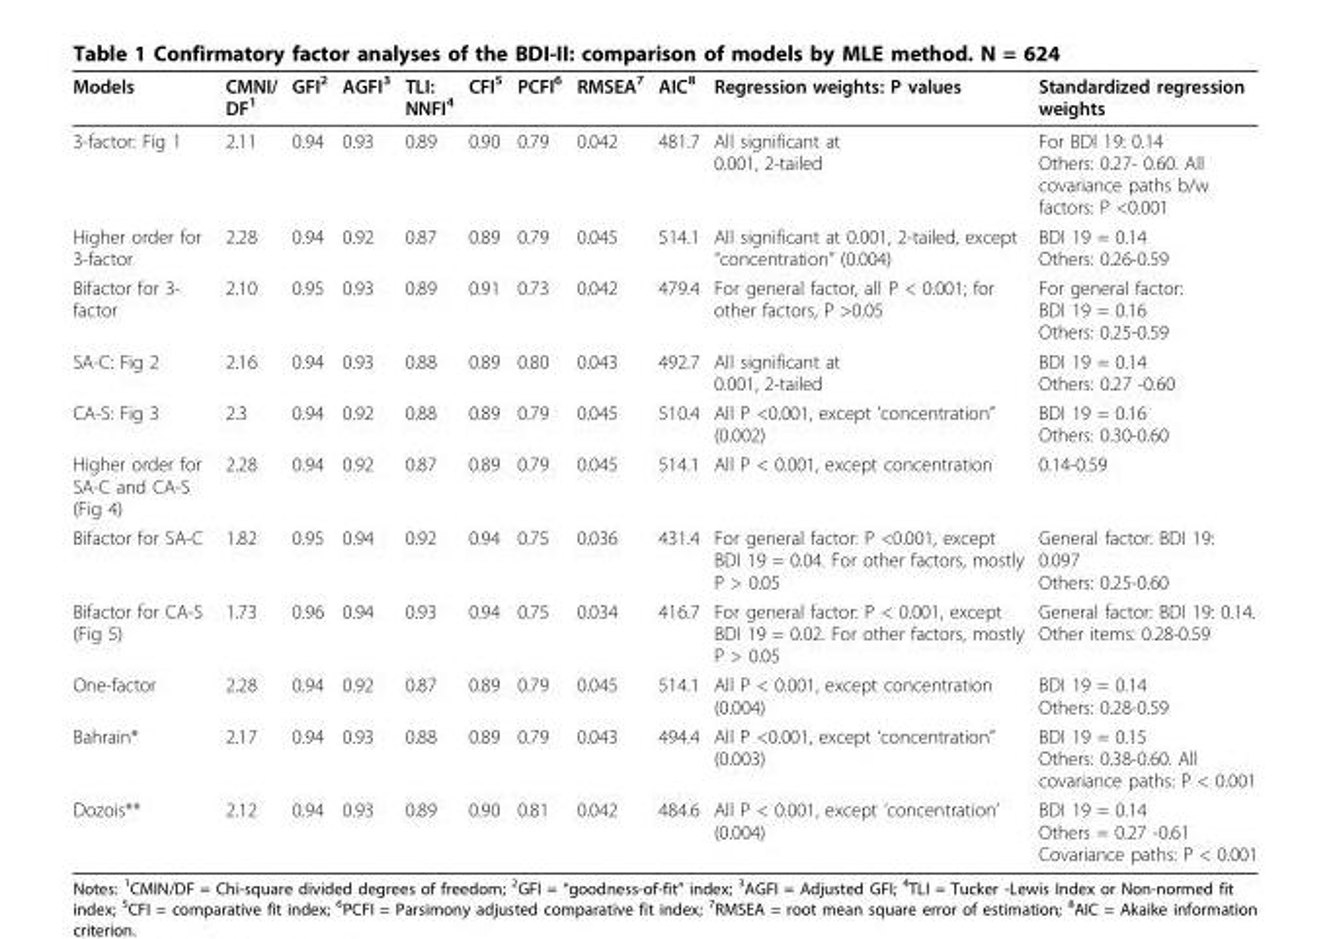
<table><thead><tr><td>Models</td><td>CMNI/ DF<sup>1</sup></td><td>GFI<sup>2</sup></td><td>AGFI<sup>3</sup></td><td>TLI: NNFI<sup>4</sup></td><td>CFI<sup>5</sup></td><td>PCFI<sup>6</sup></td><td>RMSEA<sup>7</sup></td><td>AIC<sup>8</sup></td><td>Regression weights: P values</td><td>Standardized regression weights</td></tr></thead><tbody><tr><td>3-factor: Fig 1</td><td>2.11</td><td>0.94</td><td>0.93</td><td>0.89</td><td>0.90</td><td>0.79</td><td>0.042</td><td>481.7</td><td>All significant at 0.001, 2-tailed</td><td>For BDI 19: 0.14 Others: 0.27- 0.60. All covariance paths b/w factors: P &lt;0.001</td></tr><tr><td>Higher order for 3-factor</td><td>2.28</td><td>0.94</td><td>0.92</td><td>0.87</td><td>0.89</td><td>0.79</td><td>0.045</td><td>514.1</td><td>All significant at 0.001, 2-tailed, except “concentration” (0.004)</td><td>BDI 19 = 0.14 Others: 0.26-0.59</td></tr><tr><td>Bifactor for 3- factor</td><td>2.10</td><td>0.95</td><td>0.93</td><td>0.89</td><td>0.91</td><td>0.73</td><td>0.042</td><td>479.4</td><td>For general factor, all P &lt; 0.001; for other factors, P &gt;0.05</td><td>For general factor: BDI 19 = 0.16 Others: 0.25-0.59</td></tr><tr><td>SA-C: Fig 2</td><td>2.16</td><td>0.94</td><td>0.93</td><td>0.88</td><td>0.89</td><td>0.80</td><td>0.043</td><td>492.7</td><td>All significant at 0.001, 2-tailed</td><td>BDI 19 = 0.14 Others: 0.27 -0.60</td></tr><tr><td>CA-S: Fig 3</td><td>2.3</td><td>0.94</td><td>0.92</td><td>0.88</td><td>0.89</td><td>0.79</td><td>0.045</td><td>510.4</td><td>All P &lt;0.001, except ‘concentration” (0.002)</td><td>BDI 19 = 0.16 Others: 0.30-0.60</td></tr><tr><td>Higher order for SA-C and CA-S (Fig 4)</td><td>2.28</td><td>0.94</td><td>0.92</td><td>0.87</td><td>0.89</td><td>0.79</td><td>0.045</td><td>514.1</td><td>All P &lt; 0.001, except concentration</td><td>0.14-0.59</td></tr><tr><td>Bifactor for SA-C</td><td>1.82</td><td>0.95</td><td>0.94</td><td>0.92</td><td>0.94</td><td>0.75</td><td>0.036</td><td>431.4</td><td>For general factor: P &lt;0.001, except BDI 19 = 0.04. For other factors, mostly P &gt; 0.05</td><td>General factor: BDI 19: 0.097 Others: 0.25-0.60</td></tr><tr><td>Bifactor for CA-S (Fig 5)</td><td>1.73</td><td>0.96</td><td>0.94</td><td>0.93</td><td>0.94</td><td>0.75</td><td>0.034</td><td>416.7</td><td>For general factor: P &lt; 0.001, except BDI 19 = 0.02. For other factors, mostly P &gt; 0.05</td><td>General factor: BDI 19: 0.14. Other items: 0.28-0.59</td></tr><tr><td>One-factor</td><td>2.28</td><td>0.94</td><td>0.92</td><td>0.87</td><td>0.89</td><td>0.79</td><td>0.045</td><td>514.1</td><td>All P &lt; 0.001, except concentration (0.004)</td><td>BDI 19 = 0.14 Others: 0.28-0.59</td></tr><tr><td>Bahrain*</td><td>2.17</td><td>0.94</td><td>0.93</td><td>0.88</td><td>0.89</td><td>0.79</td><td>0.043</td><td>494.4</td><td>All P &lt;0.001, except ‘concentration” (0.003)</td><td>BDI 19 = 0.15 Others: 0.38-0.60. All covariance paths: P &lt; 0.001</td></tr><tr><td>Dozois**</td><td>2.12</td><td>0.94</td><td>0.93</td><td>0.89</td><td>0.90</td><td>0.81</td><td>0.042</td><td>484.6</td><td>All P &lt; 0.001, except ‘concentration’ (0.004)</td><td>BDI 19 = 0.14 Others = 0.27 -0.61 Covariance paths: P &lt; 0.001</td></tr></tbody></table>